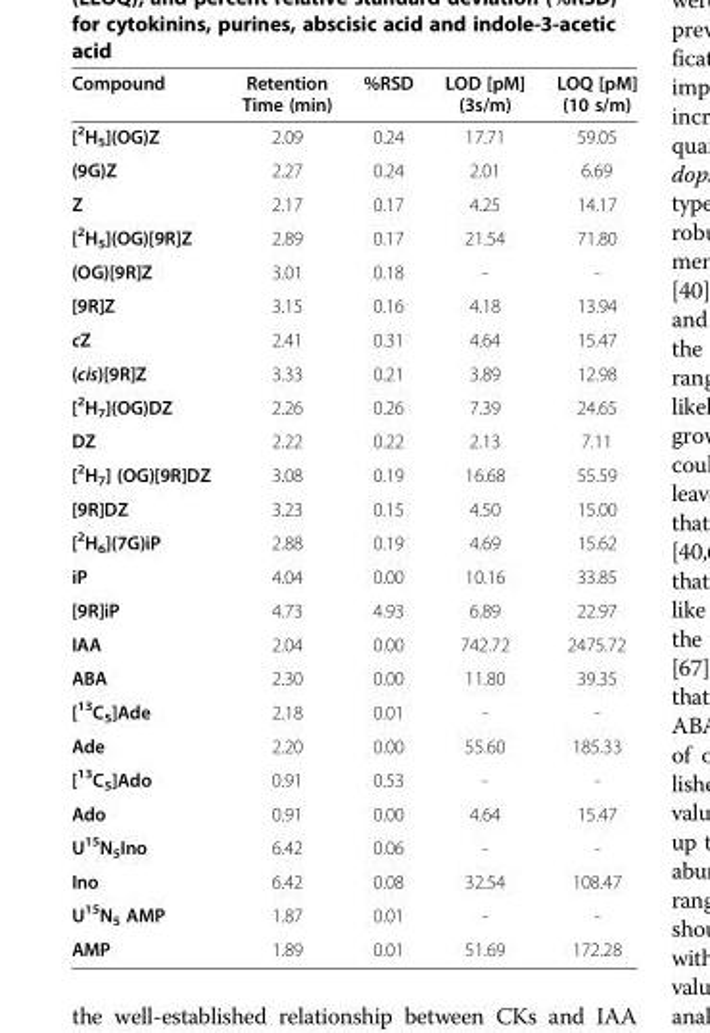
<table><thead><tr><td>Compound</td><td>Retention Time (min)</td><td>%RSD</td><td>LOD [pM] (3s/m)</td><td>LOQ [pM] (10 s/m)</td></tr></thead><tbody><tr><td>[<sup>2</sup>H<sub>5</sub>](OG)Z</td><td>2.09</td><td>0.24</td><td>17.71</td><td>59.05</td></tr><tr><td>(9G)Z</td><td>2.27</td><td>0.24</td><td>2.01</td><td>6.69</td></tr><tr><td>Z</td><td>2.17</td><td>0.17</td><td>4.25</td><td>14.17</td></tr><tr><td>[<sup>2</sup>H<sub>5</sub>](OG)[9R]Z</td><td>2.89</td><td>0.17</td><td>21.54</td><td>71.80</td></tr><tr><td>(OG)[9R]Z</td><td>3.01</td><td>0.18</td><td>-</td><td>-</td></tr><tr><td>[9R]Z</td><td>3.15</td><td>0.16</td><td>4.18</td><td>13.94</td></tr><tr><td>cZ</td><td>2.41</td><td>0.31</td><td>4.64</td><td>15.47</td></tr><tr><td>(cis)[9R]Z</td><td>3.33</td><td>0.21</td><td>3.89</td><td>12.98</td></tr><tr><td>[<sup>2</sup>H<sub>7</sub>](OG)DZ</td><td>2.26</td><td>0.26</td><td>7.39</td><td>24.65</td></tr><tr><td>DZ</td><td>2.22</td><td>0.22</td><td>2.13</td><td>7.11</td></tr><tr><td>[<sup>2</sup>H<sub>7</sub>] (OG)[9R]DZ</td><td>3.08</td><td>0.19</td><td>16.68</td><td>55.59</td></tr><tr><td>[9R]DZ</td><td>3.23</td><td>0.15</td><td>4.50</td><td>15.00</td></tr><tr><td>[<sup>2</sup>H<sub>6</sub>](7G)iP</td><td>2.88</td><td>0.19</td><td>4.69</td><td>15.62</td></tr><tr><td>iP</td><td>4.04</td><td>0.00</td><td>10.16</td><td>33.85</td></tr><tr><td>[9R]iP</td><td>4.73</td><td>4.93</td><td>6.89</td><td>22.97</td></tr><tr><td>IAA</td><td>2.04</td><td>0.00</td><td>742.72</td><td>2475.72</td></tr><tr><td>ABA</td><td>2.30</td><td>0.00</td><td>11.80</td><td>39.35</td></tr><tr><td>[<sup>13</sup>C<sub>5</sub>]Ade</td><td>2.18</td><td>0.01</td><td>-</td><td>-</td></tr><tr><td>Ade</td><td>2.20</td><td>0.00</td><td>55.60</td><td>185.33</td></tr><tr><td>[<sup>13</sup>C<sub>5</sub>]Ado</td><td>0.91</td><td>0.53</td><td>-</td><td>-</td></tr><tr><td>Ado</td><td>0.91</td><td>0.00</td><td>4.64</td><td>15.47</td></tr><tr><td>U<sup>15</sup>N<sub>5</sub>Ino</td><td>6.42</td><td>0.06</td><td>-</td><td>-</td></tr><tr><td>Ino</td><td>6.42</td><td>0.08</td><td>32.54</td><td>108.47</td></tr><tr><td>U<sup>15</sup>N<sub>5</sub> AMP</td><td>1.87</td><td>0.01</td><td>-</td><td>-</td></tr><tr><td>AMP</td><td>1.89</td><td>0.01</td><td>51.69</td><td>172.28</td></tr></tbody></table>